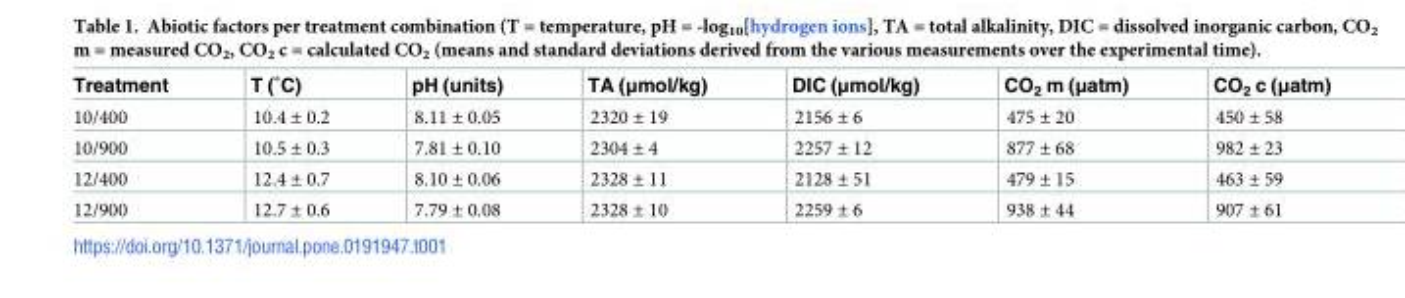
<table><thead><tr><td>Treatment</td><td>T (˚C)</td><td>pH (units)</td><td>TA (μmol/kg)</td><td>DIC (μmol/kg)</td><td>CO<sub>2</sub> m (μatm)</td><td>CO<sub>2</sub> c (μatm)</td></tr></thead><tbody><tr><td>10/400</td><td>10.4 ± 0.2</td><td>8.11 ± 0.05</td><td>2320 ± 19</td><td>2156 ± 6</td><td>475 ± 20</td><td>450 ± 58</td></tr><tr><td>10/900</td><td>10.5 ± 0.3</td><td>7.81 ± 0.10</td><td>2304 ± 4</td><td>2257 ± 12</td><td>877 ± 68</td><td>982 ± 23</td></tr><tr><td>12/400</td><td>12.4 ± 0.7</td><td>8.10 ± 0.06</td><td>2328 ± 11</td><td>2128 ± 51</td><td>479 ± 15</td><td>463 ± 59</td></tr><tr><td>12/900</td><td>12.7 ± 0.6</td><td>7.79 ± 0.08</td><td>2328 ± 10</td><td>2259 ± 6</td><td>938 ± 44</td><td>907 ± 61</td></tr></tbody></table>